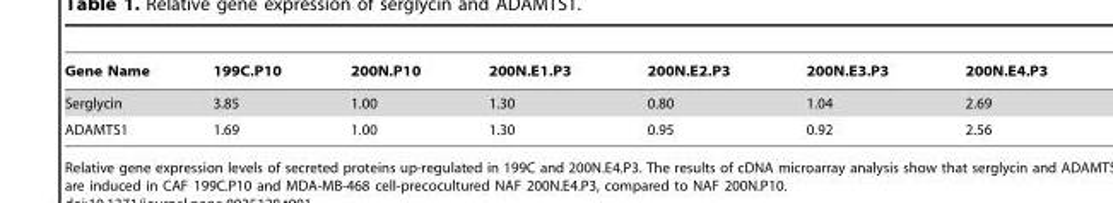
<table><thead><tr><td>Gene Name</td><td>199C.P10</td><td>200N.P10</td><td>200N.E1.P3</td><td>200N.E2.P3</td><td>200N.E3.P3</td><td>200N.E4.P3</td></tr></thead><tbody><tr><td>Serglycin</td><td>3.85</td><td>1.00</td><td>1.30</td><td>0.80</td><td>1.04</td><td>2.69</td></tr><tr><td>ADAMTS1</td><td>1.69</td><td>1.00</td><td>1.30</td><td>0.95</td><td>0.92</td><td>2.56</td></tr></tbody></table>